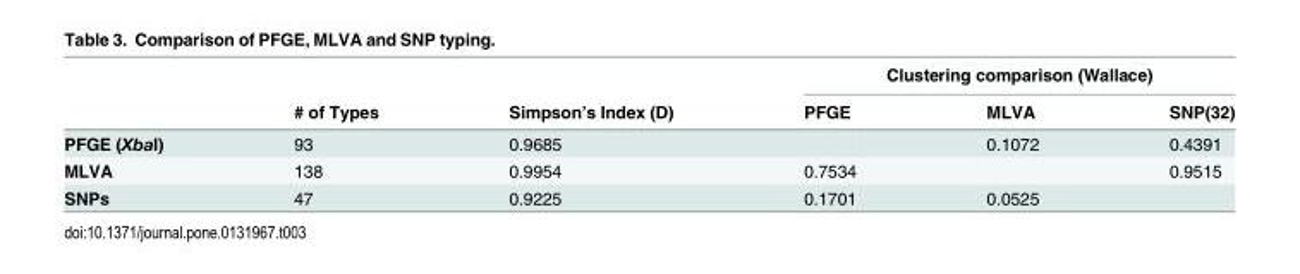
<table><thead><tr><td rowspan="2"></td><td rowspan="2"># of Types</td><td rowspan="2">Simpson’s Index (D)</td><td colspan="3">Clustering comparison (Wallace)</td></tr><tr><td>PFGE</td><td>MLVA</td><td>SNP(32)</td></tr></thead><tbody><tr><td>PFGE (XbaI)</td><td>93</td><td>0.9685</td><td></td><td>0.1072</td><td>0.4391</td></tr><tr><td>MLVA</td><td>138</td><td>0.9954</td><td>0.7534</td><td></td><td>0.9515</td></tr><tr><td>SNPs</td><td>47</td><td>0.9225</td><td>0.1701</td><td>0.0525</td><td></td></tr></tbody></table>